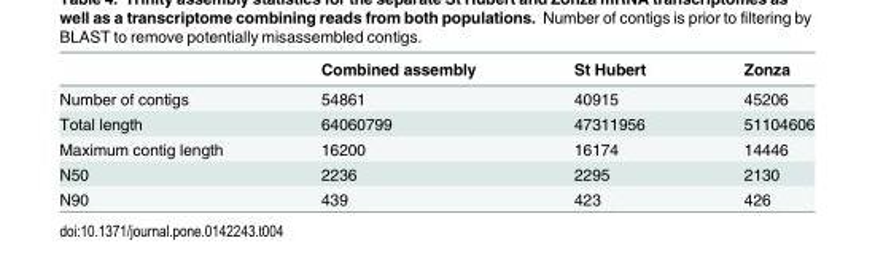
<table><thead><tr><td></td><td>Combined assembly</td><td>St Hubert</td><td>Zonza</td></tr></thead><tbody><tr><td>Number of contigs</td><td>54861</td><td>40915</td><td>45206</td></tr><tr><td>Total length</td><td>64060799</td><td>47311956</td><td>51104606</td></tr><tr><td>Maximum contig length</td><td>16200</td><td>16174</td><td>14446</td></tr><tr><td>N50</td><td>2236</td><td>2295</td><td>2130</td></tr><tr><td>N90</td><td>439</td><td>423</td><td>426</td></tr></tbody></table>